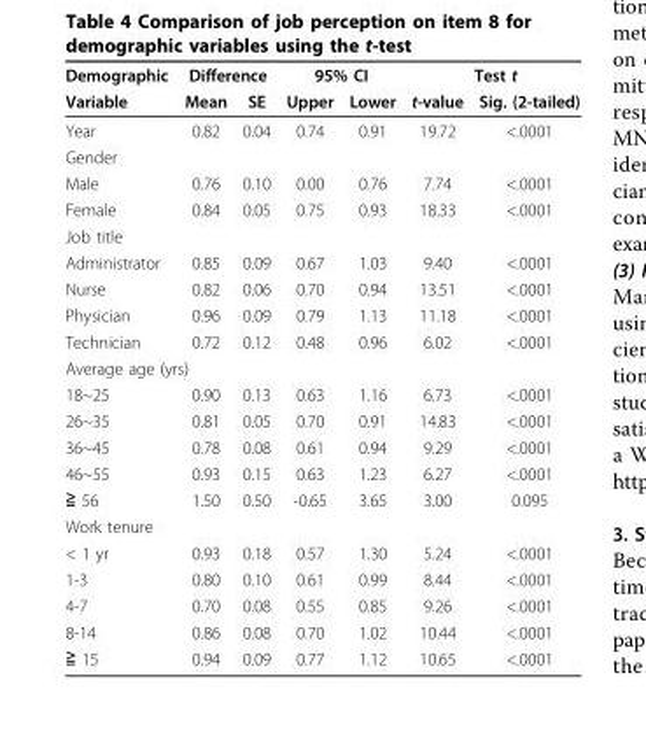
<table><thead><tr><td rowspan="2">Demographic Variable</td><td colspan="2">Difference</td><td colspan="2">95% CI</td><td colspan="2">Test t</td></tr><tr><td>Mean</td><td>SE</td><td>Upper</td><td>Lower</td><td>t-value</td><td>Sig. (2-tailed)</td></tr></thead><tbody><tr><td>Year</td><td>0.82</td><td>0.04</td><td>0.74</td><td>0.91</td><td>19.72</td><td>&lt;.0001</td></tr><tr><td colspan="7">Gender</td></tr><tr><td>Male</td><td>0.76</td><td>0.10</td><td>0.00</td><td>0.76</td><td>7.74</td><td>&lt;.0001</td></tr><tr><td>Female</td><td>0.84</td><td>0.05</td><td>0.75</td><td>0.93</td><td>18.33</td><td>&lt;.0001</td></tr><tr><td colspan="7">Job title</td></tr><tr><td>Administrator</td><td>0.85</td><td>0.09</td><td>0.67</td><td>1.03</td><td>9.40</td><td>&lt;.0001</td></tr><tr><td>Nurse</td><td>0.82</td><td>0.06</td><td>0.70</td><td>0.94</td><td>13.51</td><td>&lt;.0001</td></tr><tr><td>Physician</td><td>0.96</td><td>0.09</td><td>0.79</td><td>1.13</td><td>11.18</td><td>&lt;.0001</td></tr><tr><td>Technician</td><td>0.72</td><td>0.12</td><td>0.48</td><td>0.96</td><td>6.02</td><td>&lt;.0001</td></tr><tr><td colspan="7">Average age (yrs)</td></tr><tr><td>18~25</td><td>0.90</td><td>0.13</td><td>0.63</td><td>1.16</td><td>6.73</td><td>&lt;.0001</td></tr><tr><td>26~35</td><td>0.81</td><td>0.05</td><td>0.70</td><td>0.91</td><td>14.83</td><td>&lt;.0001</td></tr><tr><td>36~45</td><td>0.78</td><td>0.08</td><td>0.61</td><td>0.94</td><td>9.29</td><td>&lt;.0001</td></tr><tr><td>46~55</td><td>0.93</td><td>0.15</td><td>0.63</td><td>1.23</td><td>6.27</td><td>&lt;.0001</td></tr><tr><td>≧ 56</td><td>1.50</td><td>0.50</td><td>-0.65</td><td>3.65</td><td>3.00</td><td>0.095</td></tr><tr><td colspan="7">Work tenure</td></tr><tr><td>&lt; 1 yr</td><td>0.93</td><td>0.18</td><td>0.57</td><td>1.30</td><td>5.24</td><td>&lt;.0001</td></tr><tr><td>1-3</td><td>0.80</td><td>0.10</td><td>0.61</td><td>0.99</td><td>8.44</td><td>&lt;.0001</td></tr><tr><td>4-7</td><td>0.70</td><td>0.08</td><td>0.55</td><td>0.85</td><td>9.26</td><td>&lt;.0001</td></tr><tr><td>8-14</td><td>0.86</td><td>0.08</td><td>0.70</td><td>1.02</td><td>10.44</td><td>&lt;.0001</td></tr><tr><td>≧ 15</td><td>0.94</td><td>0.09</td><td>0.77</td><td>1.12</td><td>10.65</td><td>&lt;.0001</td></tr></tbody></table>